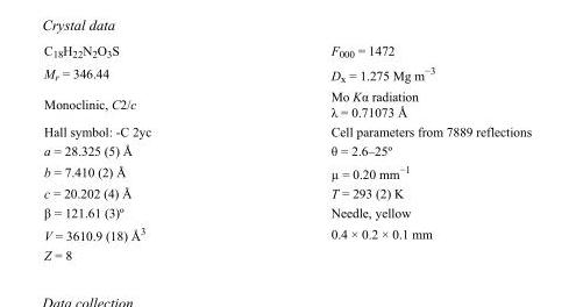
<table><tbody><tr><td>C<sub>18</sub>H<sub>22</sub>N<sub>2</sub>O<sub>3</sub>S</td><td>F<sub>000</sub> = 1472</td></tr><tr><td>M<sub>r</sub> = 346.44</td><td>D<sub>x</sub> = 1.275 Mg m<sup>−3</sup></td></tr><tr><td>Monoclinic, C2/c</td><td>Mo Kα radiation λ = 0.71073 Å</td></tr><tr><td>Hall symbol: -C 2yc</td><td>Cell parameters from 7889 reflections</td></tr><tr><td>a = 28.325 (5) Å</td><td>θ = 2.6–25º</td></tr><tr><td>b = 7.410 (2) Å</td><td>µ = 0.20 mm<sup>−1</sup></td></tr><tr><td>c = 20.202 (4) Å</td><td>T = 293 (2) K</td></tr><tr><td>β = 121.61 (3)º</td><td>Needle, yellow</td></tr><tr><td>V = 3610.9 (18) Å<sup>3</sup></td><td>0.4 × 0.2 × 0.1 mm</td></tr><tr><td>Z = 8</td><td></td></tr></tbody></table>